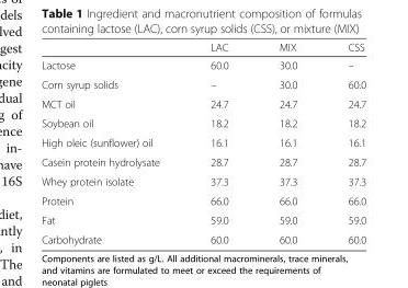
<table><thead><tr><td></td><td>LAC</td><td>MIX</td><td>CSS</td></tr></thead><tbody><tr><td>Lactose</td><td>60.0</td><td>30.0</td><td>–</td></tr><tr><td>Corn syrup solids</td><td>–</td><td>30.0</td><td>60.0</td></tr><tr><td>MCT oil</td><td>24.7</td><td>24.7</td><td>24.7</td></tr><tr><td>Soybean oil</td><td>18.2</td><td>18.2</td><td>18.2</td></tr><tr><td>High oleic (sunflower) oil</td><td>16.1</td><td>16.1</td><td>16.1</td></tr><tr><td>Casein protein hydrolysate</td><td>28.7</td><td>28.7</td><td>28.7</td></tr><tr><td>Whey protein isolate</td><td>37.3</td><td>37.3</td><td>37.3</td></tr><tr><td>Protein</td><td>66.0</td><td>66.0</td><td>66.0</td></tr><tr><td>Fat</td><td>59.0</td><td>59.0</td><td>59.0</td></tr><tr><td>Carbohydrate</td><td>60.0</td><td>60.0</td><td>60.0</td></tr></tbody></table>